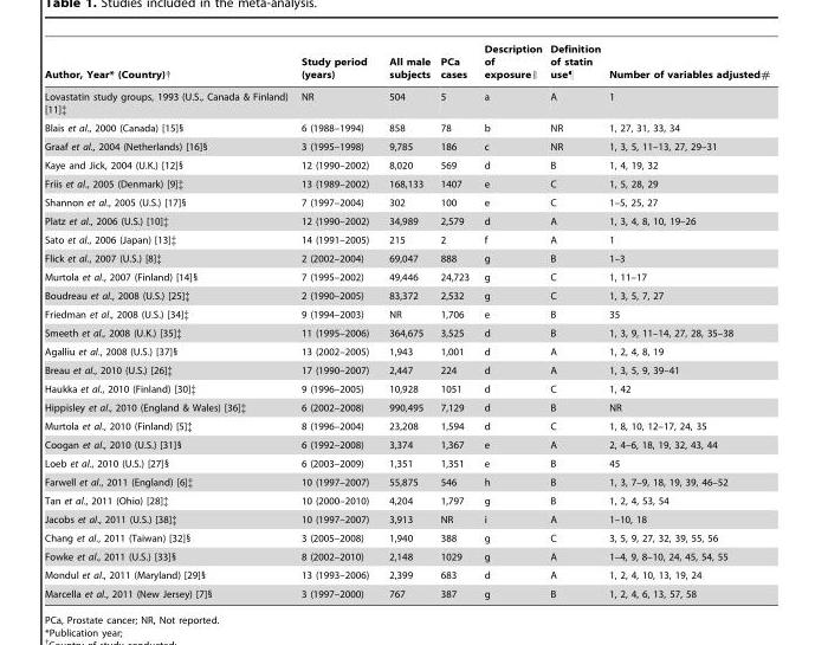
<table><thead><tr><td>Author, Year* (Country)†</td><td>Study period (years)</td><td>All male subjects</td><td>PCa cases</td><td>Description of exposure∥</td><td>Definition of statin use¶</td><td>Number of variables adjusted#</td></tr></thead><tbody><tr><td>Lovastatin study groups, 1993 (U.S., Canada &amp; Finland) [11]‡</td><td>NR</td><td>504</td><td>5</td><td>a</td><td>A</td><td>1</td></tr><tr><td>Blais et al., 2000 (Canada) [15]§</td><td>6 (1988–1994)</td><td>858</td><td>78</td><td>b</td><td>NR</td><td>1, 27, 31, 33, 34</td></tr><tr><td>Graaf et al., 2004 (Netherlands) [16]§</td><td>3 (1995–1998)</td><td>9,785</td><td>186</td><td>c</td><td>NR</td><td>1, 3, 5, 11–13, 27, 29–31</td></tr><tr><td>Kaye and Jick, 2004 (U.K.) [12]§</td><td>12 (1990–2002)</td><td>8,020</td><td>569</td><td>d</td><td>B</td><td>1, 4, 19, 32</td></tr><tr><td>Friis et al., 2005 (Denmark) [9]‡</td><td>13 (1989–2002)</td><td>168,133</td><td>1407</td><td>e</td><td>C</td><td>1, 5, 28, 29</td></tr><tr><td>Shannon et al., 2005 (U.S.) [17]§</td><td>7 (1997–2004)</td><td>302</td><td>100</td><td>e</td><td>C</td><td>1–5, 25, 27</td></tr><tr><td>Platz et al., 2006 (U.S.) [10]‡</td><td>12 (1990–2002)</td><td>34,989</td><td>2,579</td><td>d</td><td>A</td><td>1, 3, 4, 8, 10, 19–26</td></tr><tr><td>Sato et al., 2006 (Japan) [13]‡</td><td>14 (1991–2005)</td><td>215</td><td>2</td><td>f</td><td>A</td><td>1</td></tr><tr><td>Flick et al., 2007 (U.S.) [8]‡</td><td>2 (2002–2004)</td><td>69,047</td><td>888</td><td>g</td><td>B</td><td>1–3</td></tr><tr><td>Murtola et al., 2007 (Finland) [14]§</td><td>7 (1995–2002)</td><td>49,446</td><td>24,723</td><td>g</td><td>C</td><td>1, 11–17</td></tr><tr><td>Boudreau et al., 2008 (U.S.) [25]‡</td><td>2 (1990–2005)</td><td>83,372</td><td>2,532</td><td>g</td><td>C</td><td>1, 3, 5, 7, 27</td></tr><tr><td>Friedman et al., 2008 (U.S.) [34]‡</td><td>9 (1994–2003)</td><td>NR</td><td>1,706</td><td>e</td><td>B</td><td>35</td></tr><tr><td>Smeeth et al., 2008 (U.K.) [35]‡</td><td>11 (1995–2006)</td><td>364,675</td><td>3,525</td><td>d</td><td>B</td><td>1, 3, 9, 11–14, 27, 28, 35–38</td></tr><tr><td>Agalliu et al., 2008 (U.S.) [37]§</td><td>13 (2002–2005)</td><td>1,943</td><td>1,001</td><td>d</td><td>A</td><td>1, 2, 4, 8, 19</td></tr><tr><td>Breau et al., 2010 (U.S.) [26]‡</td><td>17 (1990–2007)</td><td>2,447</td><td>224</td><td>d</td><td>A</td><td>1, 3, 5, 9, 39–41</td></tr><tr><td>Haukka et al., 2010 (Finland) [30]‡</td><td>9 (1996–2005)</td><td>10,928</td><td>1051</td><td>d</td><td>C</td><td>1, 42</td></tr><tr><td>Hippisley et al., 2010 (England &amp; Wales) [36]‡</td><td>6 (2002–2008)</td><td>990,495</td><td>7,129</td><td>d</td><td>B</td><td>NR</td></tr><tr><td>Murtola et al., 2010 (Finland) [5]‡</td><td>8 (1996–2004)</td><td>23,208</td><td>1,594</td><td>d</td><td>C</td><td>1, 8, 10, 12–17, 24, 35</td></tr><tr><td>Coogan et al., 2010 (U.S.) [31]§</td><td>6 (1992–2008)</td><td>3,374</td><td>1,367</td><td>e</td><td>A</td><td>2, 4–6, 18, 19, 32, 43, 44</td></tr><tr><td>Loeb et al., 2010 (U.S.) [27]§</td><td>6 (2003–2009)</td><td>1,351</td><td>1,351</td><td>e</td><td>B</td><td>45</td></tr><tr><td>Farwell et al., 2011 (England) [6]‡</td><td>10 (1997–2007)</td><td>55,875</td><td>546</td><td>h</td><td>B</td><td>1, 3, 7–9, 18, 19, 39, 46–52</td></tr><tr><td>Tan et al., 2011 (Ohio) [28]‡</td><td>10 (2000–2010)</td><td>4,204</td><td>1,797</td><td>g</td><td>B</td><td>1, 2, 4, 53, 54</td></tr><tr><td>Jacobs et al., 2011 (U.S.) [38]‡</td><td>10 (1997–2007)</td><td>3,913</td><td>NR</td><td>i</td><td>A</td><td>1–10, 18</td></tr><tr><td>Chang et al., 2011 (Taiwan) [32]§</td><td>3 (2005–2008)</td><td>1,940</td><td>388</td><td>g</td><td>C</td><td>3, 5, 9, 27, 32, 39, 55, 56</td></tr><tr><td>Fowke et al., 2011 (U.S.) [33]§</td><td>8 (2002–2010)</td><td>2,148</td><td>1029</td><td>g</td><td>A</td><td>1–4, 9, 8–10, 24, 45, 54, 55</td></tr><tr><td>Mondul et al., 2011 (Maryland) [29]§</td><td>13 (1993–2006)</td><td>2,399</td><td>683</td><td>d</td><td>A</td><td>1, 2, 4, 10, 13, 19, 24</td></tr><tr><td>Marcella et al., 2011 (New Jersey) [7]§</td><td>3 (1997–2000)</td><td>767</td><td>387</td><td>g</td><td>B</td><td>1, 2, 4, 6, 13, 57, 58</td></tr></tbody></table>